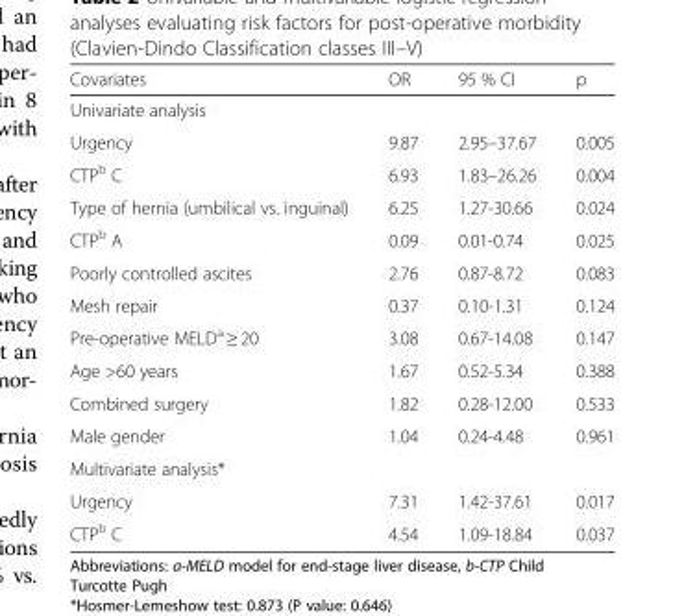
<table><thead><tr><td>Covariates</td><td>OR</td><td>95 % CI</td><td>p</td></tr></thead><tbody><tr><td colspan="4">Univariate analysis</td></tr><tr><td>Urgency</td><td>9.87</td><td>2.95–37.67</td><td>0.005</td></tr><tr><td>CTP<sup>b</sup> C</td><td>6.93</td><td>1.83–26.26</td><td>0.004</td></tr><tr><td>Type of hernia (umbilical vs. inguinal)</td><td>6.25</td><td>1.27-30.66</td><td>0.024</td></tr><tr><td>CTP<sup>b</sup> A</td><td>0.09</td><td>0.01-0.74</td><td>0.025</td></tr><tr><td>Poorly controlled ascites</td><td>2.76</td><td>0.87-8.72</td><td>0.083</td></tr><tr><td>Mesh repair</td><td>0.37</td><td>0.10-1.31</td><td>0.124</td></tr><tr><td>Pre-operative MELD<sup>a</sup> ≥ 20</td><td>3.08</td><td>0.67-14.08</td><td>0.147</td></tr><tr><td>Age &gt;60 years</td><td>1.67</td><td>0.52-5.34</td><td>0.388</td></tr><tr><td>Combined surgery</td><td>1.82</td><td>0.28-12.00</td><td>0.533</td></tr><tr><td>Male gender</td><td>1.04</td><td>0.24-4.48</td><td>0.961</td></tr><tr><td colspan="4">Multivariate analysis*</td></tr><tr><td>Urgency</td><td>7.31</td><td>1.42-37.61</td><td>0.017</td></tr><tr><td>CTP<sup>b</sup> C</td><td>4.54</td><td>1.09-18.84</td><td>0.037</td></tr></tbody></table>